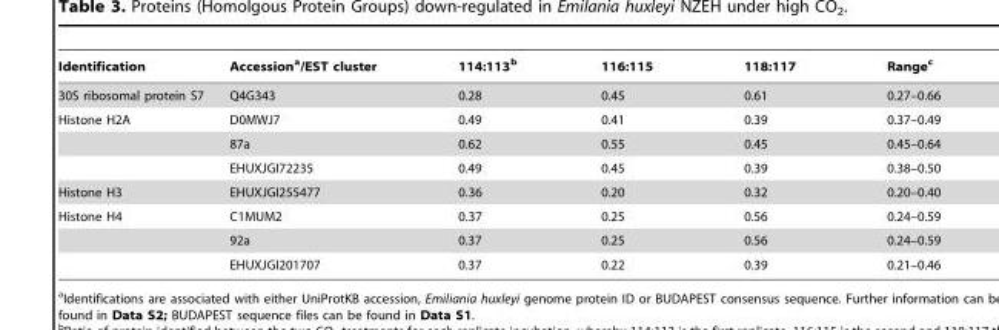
<table><thead><tr><td>Identification</td><td>Accession<sup>a</sup>/EST cluster</td><td>114:113b</td><td>116:115</td><td>118:117</td><td>Range<sup>c</sup></td></tr></thead><tbody><tr><td>30S ribosomal protein S7</td><td>Q4G343</td><td>0.28</td><td>0.45</td><td>0.61</td><td>0.27–0.66</td></tr><tr><td rowspan="3">Histone H2A</td><td>D0MWJ7</td><td>0.49</td><td>0.41</td><td>0.39</td><td>0.37–0.49</td></tr><tr><td>87a</td><td>0.62</td><td>0.55</td><td>0.45</td><td>0.45–0.64</td></tr><tr><td>EHUXJGI72235</td><td>0.49</td><td>0.45</td><td>0.39</td><td>0.38–0.50</td></tr><tr><td>Histone H3</td><td>EHUXJGI255477</td><td>0.36</td><td>0.20</td><td>0.32</td><td>0.20–0.40</td></tr><tr><td rowspan="3">Histone H4</td><td>C1MUM2</td><td>0.37</td><td>0.25</td><td>0.56</td><td>0.24–0.59</td></tr><tr><td>92a</td><td>0.37</td><td>0.25</td><td>0.56</td><td>0.24–0.59</td></tr><tr><td>EHUXJGI201707</td><td>0.37</td><td>0.22</td><td>0.39</td><td>0.21–0.46</td></tr></tbody></table>